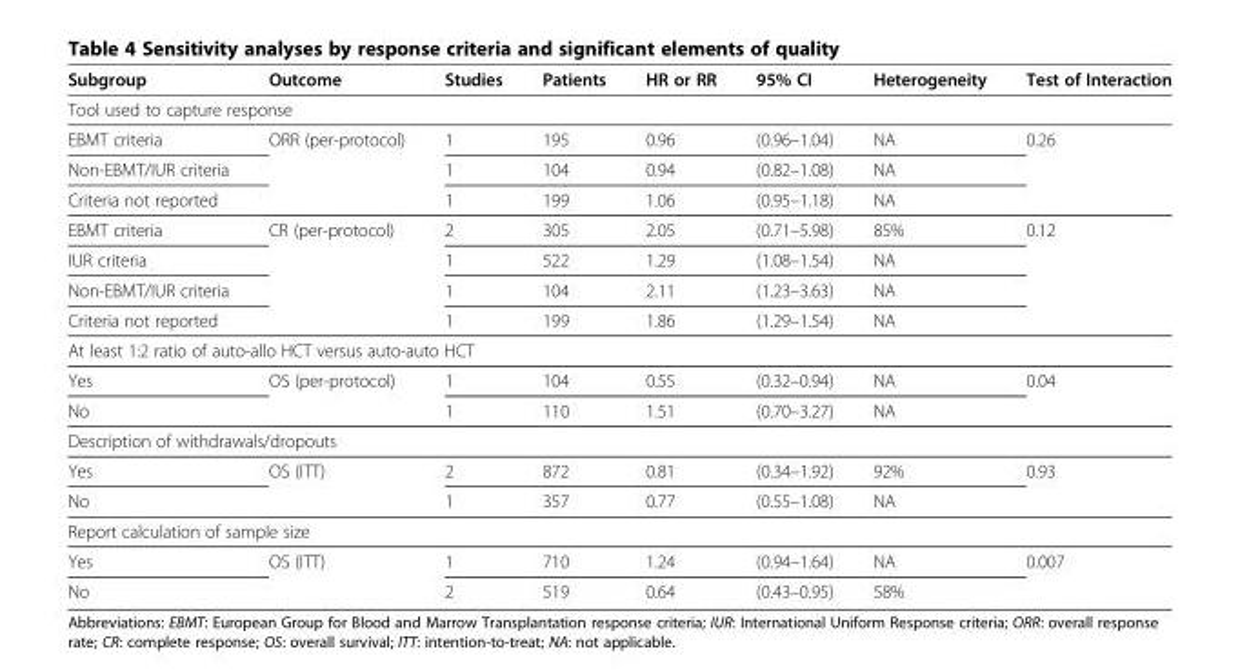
<table><thead><tr><td>Subgroup</td><td>Outcome</td><td>Studies</td><td>Patients</td><td>HR or RR</td><td>95% CI</td><td>Heterogeneity</td><td>Test of Interaction</td></tr></thead><tbody><tr><td colspan="8">Tool used to capture response</td></tr><tr><td>EBMT criteria</td><td rowspan="3">ORR (per-protocol)</td><td>1</td><td>195</td><td>0.96</td><td>(0.96–1.04)</td><td>NA</td><td rowspan="3">0.26</td></tr><tr><td>Non-EBMT/IUR criteria</td><td>1</td><td>104</td><td>0.94</td><td>(0.82–1.08)</td><td>NA</td></tr><tr><td>Criteria not reported</td><td>1</td><td>199</td><td>1.06</td><td>(0.95–1.18)</td><td>NA</td></tr><tr><td>EBMT criteria</td><td rowspan="4">CR (per-protocol)</td><td>2</td><td>305</td><td>2.05</td><td>(0.71–5.98)</td><td>85%</td><td rowspan="4">0.12</td></tr><tr><td>IUR criteria</td><td>1</td><td>522</td><td>1.29</td><td>(1.08–1.54)</td><td>NA</td></tr><tr><td>Non-EBMT/IUR criteria</td><td>1</td><td>104</td><td>2.11</td><td>(1.23–3.63)</td><td>NA</td></tr><tr><td>Criteria not reported</td><td>1</td><td>199</td><td>1.86</td><td>(1.29–1.54)</td><td>NA</td></tr><tr><td colspan="8">At least 1:2 ratio of auto-allo HCT versus auto-auto HCT</td></tr><tr><td>Yes</td><td>OS (per-protocol)</td><td>1</td><td>104</td><td>0.55</td><td>(0.32–0.94)</td><td>NA</td><td>0.04</td></tr><tr><td>No</td><td></td><td>1</td><td>110</td><td>1.51</td><td>(0.70–3.27)</td><td>NA</td><td></td></tr><tr><td colspan="8">Description of withdrawals/dropouts</td></tr><tr><td>Yes</td><td rowspan="2">OS (ITT)</td><td>2</td><td>872</td><td>0.81</td><td>(0.34–1.92)</td><td>92%</td><td rowspan="2">0.93</td></tr><tr><td>No</td><td>1</td><td>357</td><td>0.77</td><td>(0.55–1.08)</td><td>NA</td></tr><tr><td colspan="8">Report calculation of sample size</td></tr><tr><td>Yes</td><td rowspan="2">OS (ITT)</td><td>1</td><td>710</td><td>1.24</td><td>(0.94–1.64)</td><td>NA</td><td rowspan="2">0.007</td></tr><tr><td>No</td><td>2</td><td>519</td><td>0.64</td><td>(0.43–0.95)</td><td>58%</td></tr></tbody></table>